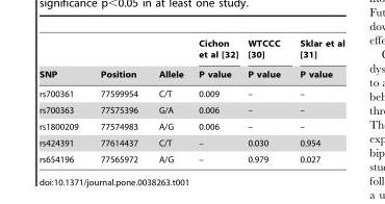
<table><thead><tr><td rowspan="2">SNP</td><td rowspan="2">Position</td><td rowspan="2">Allele</td><td rowspan="2">Cichon et al [32] P value</td><td rowspan="2">WTCCC [30] P value</td><td rowspan="2">Sklar et al [31] P value</td></tr><tr></tr></thead><tbody><tr><td>rs700361</td><td>77599954</td><td>C/T</td><td>0.009</td><td>–</td><td>–</td></tr><tr><td>rs700363</td><td>77575396</td><td>G/A</td><td>0.006</td><td>–</td><td>–</td></tr><tr><td>rs1800209</td><td>77574983</td><td>A/G</td><td>0.006</td><td>–</td><td>–</td></tr><tr><td>rs424391</td><td>77614437</td><td>C/T</td><td>–</td><td>0.030</td><td>0.954</td></tr><tr><td>rs654196</td><td>77565972</td><td>A/G</td><td>–</td><td>0.979</td><td>0.027</td></tr></tbody></table>